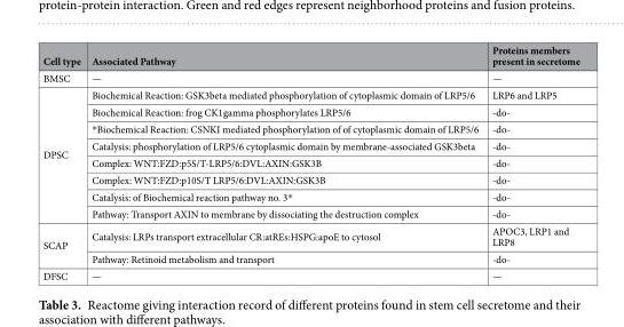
<table><thead><tr><td>Cell type</td><td>Associated Pathway</td><td>Proteins members present in secretome</td></tr></thead><tbody><tr><td>BMSC</td><td>—</td><td>—</td></tr><tr><td rowspan="8">DPSC</td><td>Biochemical Reaction: GSK3beta mediated phosphorylation of cytoplasmic domain of LRP5/6</td><td>LRP6 and LRP5</td></tr><tr><td>Biochemical Reaction: frog CK1gamma phosphorylates LRP5/6</td><td>-do-</td></tr><tr><td>*Biochemical Reaction: CSNKI mediated phosphorylation of of cytoplasmic domain of LRP5/6</td><td>-do-</td></tr><tr><td>Catalysis: phosphorylation of LRP5/6 cytoplasmic domain by membrane-associated GSK3beta</td><td>-do-</td></tr><tr><td>Complex: WNT:FZD:p5S/T-LRP5/6:DVL:AXIN:GSK3B</td><td>-do-</td></tr><tr><td>Complex: WNT:FZD:p10S/T LRP5/6:DVL:AXIN:GSK3B</td><td>-do-</td></tr><tr><td>Catalysis: of Biochemical reaction pathway no. 3*</td><td>-do-</td></tr><tr><td>Pathway: Transport AXIN to membrane by dissociating the destruction complex</td><td>-do-</td></tr><tr><td rowspan="2">SCAP</td><td>Catalysis: LRPs transport extracellular CR:atREs:HSPG:apoE to cytosol</td><td>APOC3, LRP1 and LRP8</td></tr><tr><td>Pathway: Retinoid metabolism and transport</td><td>-do-</td></tr><tr><td>DFSC</td><td>—</td><td>—</td></tr></tbody></table>